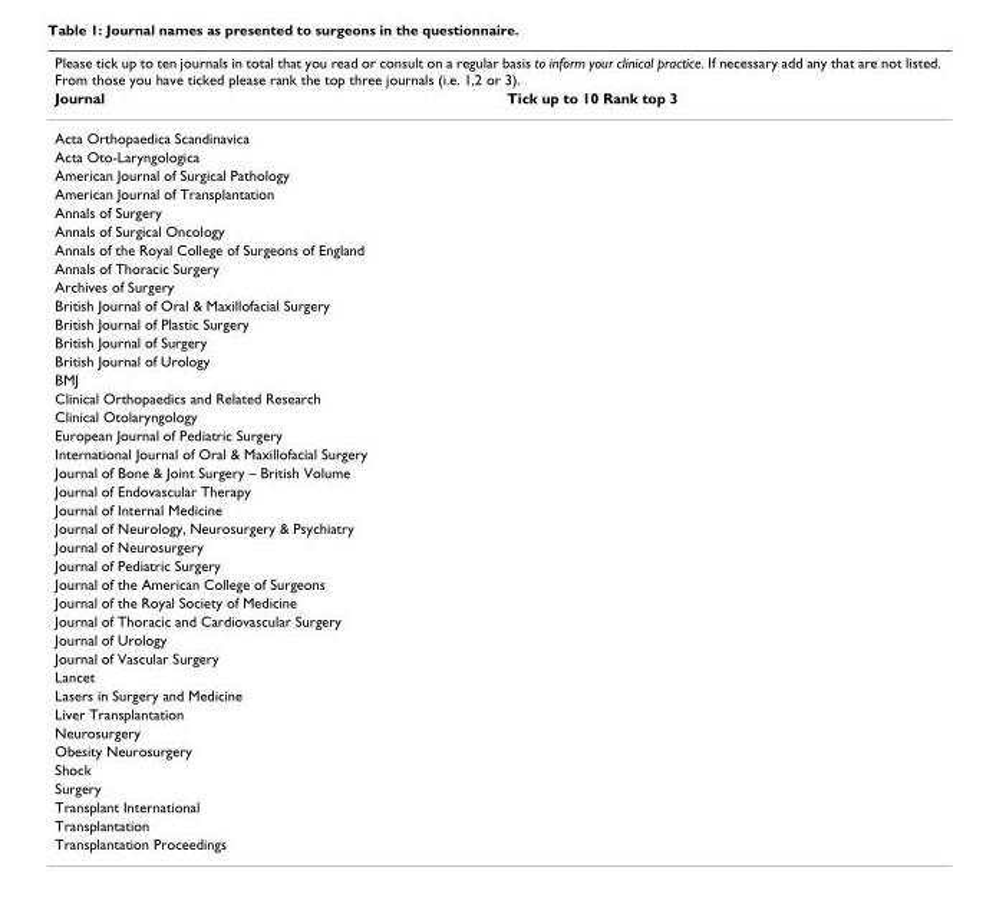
<table><thead><tr><td colspan="2">Please tick up to ten journals in total that you read or consult on a regular basis to inform your clinical practice. If necessary add any that are not listed. From those you have ticked please rank the top three journals (i.e. 1,2 or 3).</td></tr><tr><td>Journal</td><td>Tick up to 10 Rank top 3</td></tr></thead><tbody><tr><td colspan="2">Acta Orthopaedica Scandinavica</td></tr><tr><td colspan="2">Acta Oto-Laryngologica</td></tr><tr><td colspan="2">American Journal of Surgical Pathology</td></tr><tr><td colspan="2">American Journal of Transplantation</td></tr><tr><td colspan="2">Annals of Surgery</td></tr><tr><td colspan="2">Annals of Surgical Oncology</td></tr><tr><td colspan="2">Annals of the Royal College of Surgeons of England</td></tr><tr><td colspan="2">Annals of Thoracic Surgery</td></tr><tr><td colspan="2">Archives of Surgery</td></tr><tr><td colspan="2">British Journal of Oral &amp; Maxillofacial Surgery</td></tr><tr><td colspan="2">British Journal of Plastic Surgery</td></tr><tr><td colspan="2">British Journal of Surgery</td></tr><tr><td colspan="2">British Journal of Urology</td></tr><tr><td colspan="2">BMJ</td></tr><tr><td colspan="2">Clinical Orthopaedics and Related Research</td></tr><tr><td colspan="2">Clinical Otolaryngology</td></tr><tr><td colspan="2">European Journal of Pediatric Surgery</td></tr><tr><td colspan="2">International Journal of Oral &amp; Maxillofacial Surgery</td></tr><tr><td colspan="2">Journal of Bone &amp; Joint Surgery – British Volume</td></tr><tr><td colspan="2">Journal of Endovascular Therapy</td></tr><tr><td colspan="2">Journal of Internal Medicine</td></tr><tr><td colspan="2">Journal of Neurology, Neurosurgery &amp; Psychiatry</td></tr><tr><td colspan="2">Journal of Neurosurgery</td></tr><tr><td colspan="2">Journal of Pediatric Surgery</td></tr><tr><td colspan="2">Journal of the American College of Surgeons</td></tr><tr><td colspan="2">Journal of the Royal Society of Medicine</td></tr><tr><td colspan="2">Journal of Thoracic and Cardiovascular Surgery</td></tr><tr><td colspan="2">Journal of Urology</td></tr><tr><td colspan="2">Journal of Vascular Surgery</td></tr><tr><td colspan="2">Lancet</td></tr><tr><td colspan="2">Lasers in Surgery and Medicine</td></tr><tr><td colspan="2">Liver Transplantation</td></tr><tr><td colspan="2">Neurosurgery</td></tr><tr><td colspan="2">Obesity Neurosurgery</td></tr><tr><td colspan="2">Shock</td></tr><tr><td colspan="2">Surgery</td></tr><tr><td colspan="2">Transplant International</td></tr><tr><td colspan="2">Transplantation</td></tr><tr><td>Transplantation Proceedings</td><td></td></tr></tbody></table>